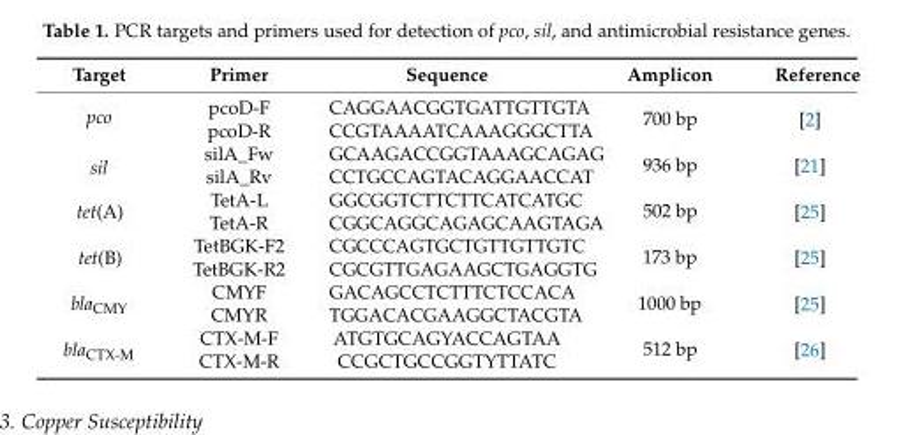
<table><thead><tr><td>Target</td><td>Primer</td><td>Sequence</td><td>Amplicon</td><td>Reference</td></tr></thead><tbody><tr><td rowspan="2">pco</td><td>pcoD-F</td><td>CAGGAACGGTGATTGTTGTA</td><td rowspan="2">700 bp</td><td rowspan="2">[2]</td></tr><tr><td>pcoD-R</td><td>CCGTAAAATCAAAGGGCTTA</td></tr><tr><td rowspan="2">sil</td><td>silA_Fw</td><td>GCAAGACCGGTAAAGCAGAG</td><td rowspan="2">936 bp</td><td rowspan="2">[21]</td></tr><tr><td>silA_Rv</td><td>CCTGCCAGTACAGGAACCAT</td></tr><tr><td rowspan="2">tet(A)</td><td>TetA-L</td><td>GGCGGTCTTCTTCATCATGC</td><td rowspan="2">502 bp</td><td rowspan="2">[25]</td></tr><tr><td>TetA-R</td><td>CGGCAGGCAGAGCAAGTAGA</td></tr><tr><td rowspan="2">tet(B)</td><td>TetBGK-F2</td><td>CGCCCAGTGCTGTTGTTGTC</td><td rowspan="2">173 bp</td><td rowspan="2">[25]</td></tr><tr><td>TetBGK-R2</td><td>CGCGTTGAGAAGCTGAGGTG</td></tr><tr><td rowspan="2">bla<sub>CMY</sub></td><td>CMYF</td><td>GACAGCCTCTTTCTCCACA</td><td rowspan="2">1000 bp</td><td rowspan="2">[25]</td></tr><tr><td>CMYR</td><td>TGGACACGAAGGCTACGTA</td></tr><tr><td rowspan="2">bla<sub>CTX-M</sub></td><td>CTX-M-F</td><td>ATGTGCAGYACCAGTAA</td><td rowspan="2">512 bp</td><td rowspan="2">[26]</td></tr><tr><td>CTX-M-R</td><td>CCGCTGCCGGTYTTATC</td></tr></tbody></table>